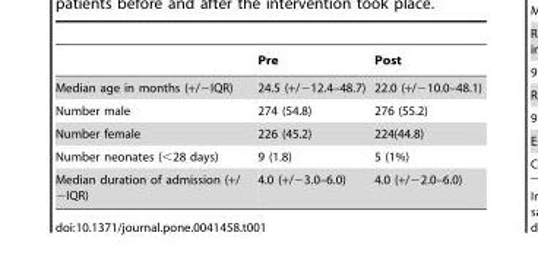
<table><thead><tr><td></td><td>Pre</td><td>Post</td></tr></thead><tbody><tr><td>Median age in months (+/−IQR)</td><td>24.5 (+/−12.4–48.7)</td><td>22.0 (+/−10.0–48.1)</td></tr><tr><td>Number male</td><td>274 (54.8)</td><td>276 (55.2)</td></tr><tr><td>Number female</td><td>226 (45.2)</td><td>224(44.8)</td></tr><tr><td>Number neonates (&lt;28 days)</td><td>9 (1.8)</td><td>5 (1%)</td></tr><tr><td>Median duration of admission (+/ −IQR)</td><td>4.0 (+/−3.0–6.0)</td><td>4.0 (+/−2.0–6.0)</td></tr></tbody></table>